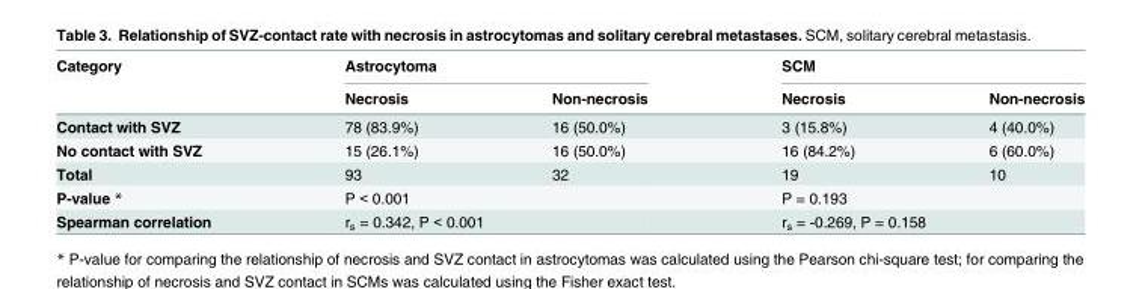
<table><thead><tr><td rowspan="2">Category</td><td colspan="2">Astrocytoma</td><td colspan="2">SCM</td></tr><tr><td>Necrosis</td><td>Non-necrosis</td><td>Necrosis</td><td>Non-necrosis</td></tr></thead><tbody><tr><td>Contact with SVZ</td><td>78 (83.9%)</td><td>16 (50.0%)</td><td>3 (15.8%)</td><td>4 (40.0%)</td></tr><tr><td>No contact with SVZ</td><td>15 (26.1%)</td><td>16 (50.0%)</td><td>16 (84.2%)</td><td>6 (60.0%)</td></tr><tr><td>Total</td><td>93</td><td>32</td><td>19</td><td>10</td></tr><tr><td>P-value *</td><td colspan="2">P &lt; 0.001</td><td colspan="2">P = 0.193</td></tr><tr><td>Spearman correlation</td><td colspan="2">r<sub>s</sub> = 0.342, P &lt; 0.001</td><td colspan="2">r<sub>s</sub> = -0.269, P = 0.158</td></tr></tbody></table>